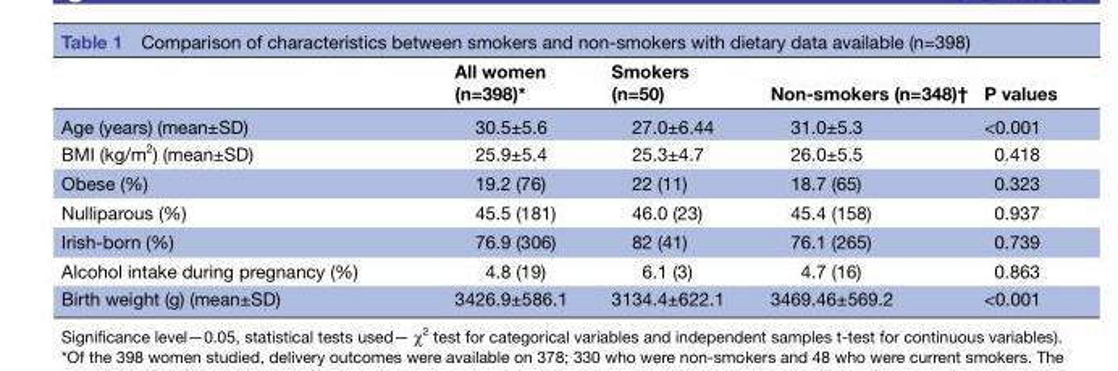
<table><thead><tr><td></td><td>All women (n=398)*</td><td>Smokers (n=50)</td><td>Non-smokers (n=348)†</td><td>P values</td></tr></thead><tbody><tr><td>Age (years) (mean±SD)</td><td>30.5±5.6</td><td>27.0±6.44</td><td>31.0±5.3</td><td>&lt;0.001</td></tr><tr><td>BMI (kg/m<sup>2</sup>) (mean±SD)</td><td>25.9±5.4</td><td>25.3±4.7</td><td>26.0±5.5</td><td>0.418</td></tr><tr><td>Obese (%)</td><td>19.2 (76)</td><td>22 (11)</td><td>18.7 (65)</td><td>0.323</td></tr><tr><td>Nulliparous (%)</td><td>45.5 (181)</td><td>46.0 (23)</td><td>45.4 (158)</td><td>0.937</td></tr><tr><td>Irish-born (%)</td><td>76.9 (306)</td><td>82 (41)</td><td>76.1 (265)</td><td>0.739</td></tr><tr><td>Alcohol intake during pregnancy (%)</td><td>4.8 (19)</td><td>6.1 (3)</td><td>4.7 (16)</td><td>0.863</td></tr><tr><td>Birth weight (g) (mean±SD)</td><td>3426.9±586.1</td><td>3134.4±622.1</td><td>3469.46±569.2</td><td>&lt;0.001</td></tr></tbody></table>